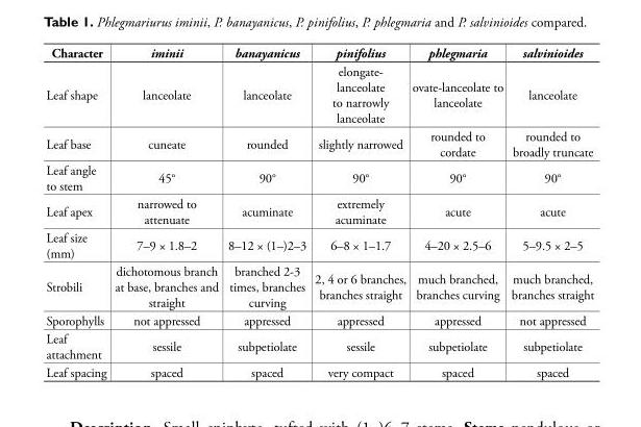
<table><thead><tr><td>Character</td><td>iminii</td><td>banayanicus</td><td>pinifolius</td><td>phlegmaria</td><td>salvinioides</td></tr></thead><tbody><tr><td>Leaf shape</td><td>lanceolate</td><td>lanceolate</td><td>elongate- lanceolate to narrowly lanceolate</td><td>ovate-lanceolate to lanceolate</td><td>lanceolate</td></tr><tr><td>Leaf base</td><td>cuneate</td><td>rounded</td><td>slightly narrowed</td><td>rounded to cordate</td><td>rounded to broadly truncate</td></tr><tr><td>Leaf angle to stem</td><td>45°</td><td>90°</td><td>90°</td><td>90°</td><td>90°</td></tr><tr><td>Leaf apex</td><td>narrowed to attenuate</td><td>acuminate</td><td>extremely acuminate</td><td>acute</td><td>acute</td></tr><tr><td>Leaf size (mm)</td><td>7–9 × 1.8–2</td><td>8–12 × (1–)2–3</td><td>6–8 × 1–1.7</td><td>4–20 × 2.5–6</td><td>5–9.5 × 2–5</td></tr><tr><td>Strobili</td><td>dichotomous branch at base, branches and straight</td><td>branched 2-3 times, branches curving</td><td>2, 4 or 6 branches, branches straight</td><td>much branched, branches curving</td><td>much branched, branches straight</td></tr><tr><td>Sporophylls</td><td>not appressed</td><td>appressed</td><td>appressed</td><td>appressed</td><td>not appressed</td></tr><tr><td>Leaf attachment</td><td>sessile</td><td>subpetiolate</td><td>sessile</td><td>subpetiolate</td><td>subpetiolate</td></tr><tr><td>Leaf spacing</td><td>spaced</td><td>spaced</td><td>very compact</td><td>spaced</td><td>spaced</td></tr></tbody></table>